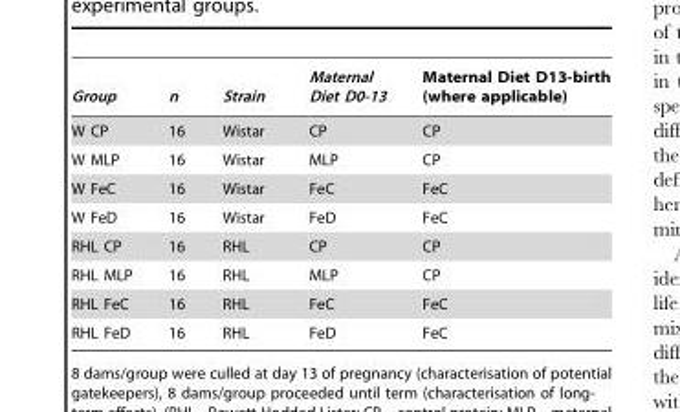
<table><thead><tr><td>Group</td><td>n</td><td>Strain</td><td>Maternal Diet D0-13</td><td>Maternal Diet D13-birth (where applicable)</td></tr></thead><tbody><tr><td>W CP</td><td>16</td><td>Wistar</td><td>CP</td><td>CP</td></tr><tr><td>W MLP</td><td>16</td><td>Wistar</td><td>MLP</td><td>CP</td></tr><tr><td>W FeC</td><td>16</td><td>Wistar</td><td>FeC</td><td>FeC</td></tr><tr><td>W FeD</td><td>16</td><td>Wistar</td><td>FeD</td><td>FeC</td></tr><tr><td>RHL CP</td><td>16</td><td>RHL</td><td>CP</td><td>CP</td></tr><tr><td>RHL MLP</td><td>16</td><td>RHL</td><td>MLP</td><td>CP</td></tr><tr><td>RHL FeC</td><td>16</td><td>RHL</td><td>FeC</td><td>FeC</td></tr><tr><td>RHL FeD</td><td>16</td><td>RHL</td><td>FeD</td><td>FeC</td></tr></tbody></table>